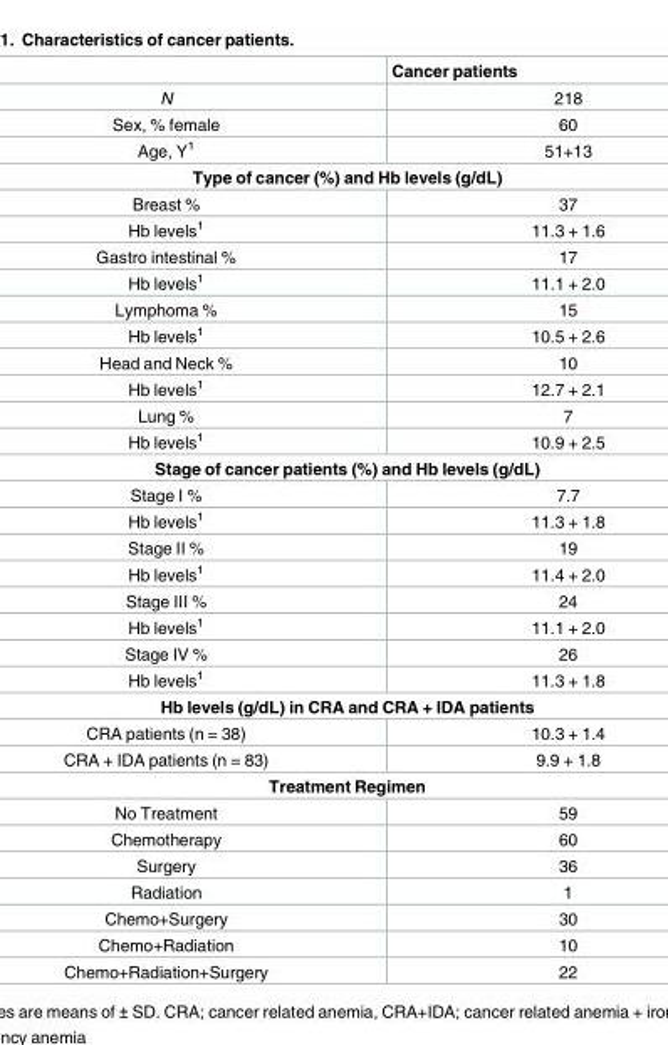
<table><thead><tr><td></td><td>Cancer patients</td></tr></thead><tbody><tr><td>N</td><td>218</td></tr><tr><td>Sex, % female</td><td>60</td></tr><tr><td>Age, Y<sup>1</sup></td><td>51+13</td></tr><tr><td colspan="2">Type of cancer (%) and Hb levels (g/dL)</td></tr><tr><td>Breast %</td><td>37</td></tr><tr><td>Hb levels<sup>1</sup></td><td>11.3 + 1.6</td></tr><tr><td>Gastro intestinal %</td><td>17</td></tr><tr><td>Hb levels<sup>1</sup></td><td>11.1 + 2.0</td></tr><tr><td>Lymphoma %</td><td>15</td></tr><tr><td>Hb levels<sup>1</sup></td><td>10.5 + 2.6</td></tr><tr><td>Head and Neck %</td><td>10</td></tr><tr><td>Hb levels<sup>1</sup></td><td>12.7 + 2.1</td></tr><tr><td>Lung %</td><td>7</td></tr><tr><td>Hb levels<sup>1</sup></td><td>10.9 + 2.5</td></tr><tr><td colspan="2">Stage of cancer patients (%) and Hb levels (g/dL)</td></tr><tr><td>Stage I %</td><td>7.7</td></tr><tr><td>Hb levels<sup>1</sup></td><td>11.3 + 1.8</td></tr><tr><td>Stage II %</td><td>19</td></tr><tr><td>Hb levels<sup>1</sup></td><td>11.4 + 2.0</td></tr><tr><td>Stage III %</td><td>24</td></tr><tr><td>Hb levels<sup>1</sup></td><td>11.1 + 2.0</td></tr><tr><td>Stage IV %</td><td>26</td></tr><tr><td>Hb levels<sup>1</sup></td><td>11.3 + 1.8</td></tr><tr><td colspan="2">Hb levels (g/dL) in CRA and CRA + IDA patients</td></tr><tr><td>CRA patients (n = 38)</td><td>10.3 + 1.4</td></tr><tr><td>CRA + IDA patients (n = 83)</td><td>9.9 + 1.8</td></tr><tr><td colspan="2">Treatment Regimen</td></tr><tr><td>No Treatment</td><td>59</td></tr><tr><td>Chemotherapy</td><td>60</td></tr><tr><td>Surgery</td><td>36</td></tr><tr><td>Radiation</td><td>1</td></tr><tr><td>Chemo+Surgery</td><td>30</td></tr><tr><td>Chemo+Radiation</td><td>10</td></tr><tr><td>Chemo+Radiation+Surgery</td><td>22</td></tr></tbody></table>